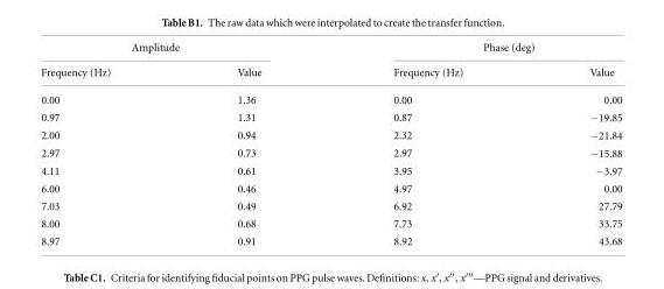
<table><thead><tr><td colspan="2">Amplitude</td><td colspan="2">Phase (deg)</td></tr><tr><td>Frequency (Hz)</td><td>Value</td><td>Frequency (Hz)</td><td>Value</td></tr></thead><tbody><tr><td>0.00</td><td>1.36</td><td>0.00</td><td>0.00</td></tr><tr><td>0.97</td><td>1.31</td><td>0.87</td><td>−19.85</td></tr><tr><td>2.00</td><td>0.94</td><td>2.32</td><td>−21.84</td></tr><tr><td>2.97</td><td>0.73</td><td>2.97</td><td>−15.88</td></tr><tr><td>4.11</td><td>0.61</td><td>3.95</td><td>−3.97</td></tr><tr><td>6.00</td><td>0.46</td><td>4.97</td><td>0.00</td></tr><tr><td>7.03</td><td>0.49</td><td>6.92</td><td>27.79</td></tr><tr><td>8.00</td><td>0.68</td><td>7.73</td><td>33.75</td></tr><tr><td>8.97</td><td>0.91</td><td>8.92</td><td>43.68</td></tr></tbody></table>